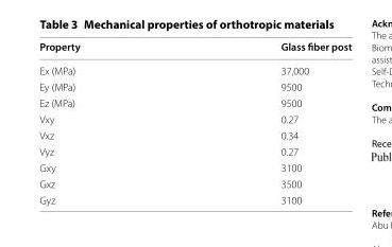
<table><thead><tr><td>Property</td><td>Glass fiber post</td></tr></thead><tbody><tr><td>Ex (MPa)</td><td>37,000</td></tr><tr><td>Ey (MPa)</td><td>9500</td></tr><tr><td>Ez (MPa)</td><td>9500</td></tr><tr><td>Vxy</td><td>0.27</td></tr><tr><td>Vxz</td><td>0.34</td></tr><tr><td>Vyz</td><td>0.27</td></tr><tr><td>Gxy</td><td>3100</td></tr><tr><td>Gxz</td><td>3500</td></tr><tr><td>Gyz</td><td>3100</td></tr></tbody></table>